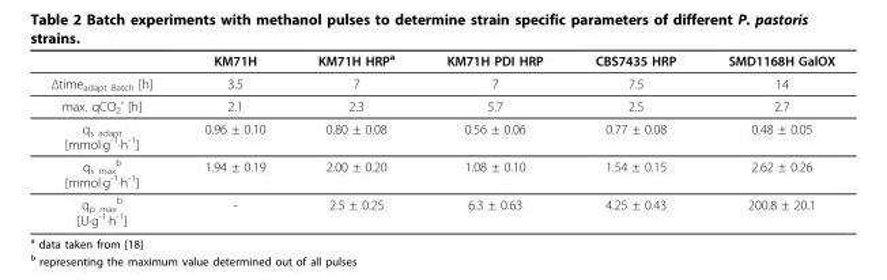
<table><thead><tr><td></td><td>KM71H</td><td>KM71H HRP<sup>a</sup></td><td>KM71H PDI HRP</td><td>CBS7435 HRP</td><td>SMD1168H GalOX</td></tr></thead><tbody><tr><td>Δtime<sub>adapt Batch</sub> [h]</td><td>3.5</td><td>7</td><td>7</td><td>7.5</td><td>14</td></tr><tr><td>max. qCO<sub>2</sub>’ [h]</td><td>2.1</td><td>2.3</td><td>5.7</td><td>2.5</td><td>2.7</td></tr><tr><td>q<sub>s adapt</sub> [mmol·g<sup>-1</sup>·h<sup>-1</sup>]</td><td>0.96 ± 0.10</td><td>0.80 ± 0.08</td><td>0.56 ± 0.06</td><td>0.77 ± 0.08</td><td>0.48 ± 0.05</td></tr><tr><td>q<sub>s max</sub> <sup>b</sup> [mmol·g<sup>-1</sup>·h<sup>-1</sup>]</td><td>1.94 ± 0.19</td><td>2.00 ± 0.20</td><td>1.08 ± 0.10</td><td>1.54 ± 0.15</td><td>2.62 ± 0.26</td></tr><tr><td>q<sub>p max</sub> <sup>b</sup> [U·g<sup>-1</sup>·h<sup>-1</sup>]</td><td>-</td><td>2.5 ± 0.25</td><td>6.3 ± 0.63</td><td>4.25 ± 0.43</td><td>200.8 ± 20.1</td></tr></tbody></table>